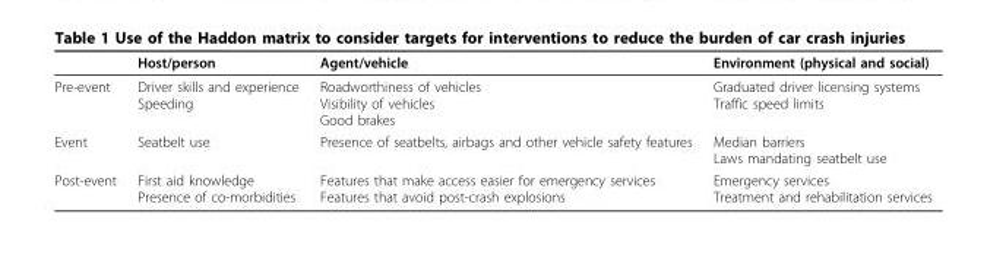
<table><thead><tr><td></td><td>Host/person</td><td>Agent/vehicle</td><td>Environment (physical and social)</td></tr></thead><tbody><tr><td>Pre-event</td><td>Driver skills and experience Speeding</td><td>Roadworthiness of vehicles Visibility of vehicles Good brakes</td><td>Graduated driver licensing systems Traffic speed limits</td></tr><tr><td>Event</td><td>Seatbelt use</td><td>Presence of seatbelts, airbags and other vehicle safety features</td><td>Median barriers Laws mandating seatbelt use</td></tr><tr><td>Post-event</td><td>First aid knowledge Presence of co-morbidities</td><td>Features that make access easier for emergency services Features that avoid post-crash explosions</td><td>Emergency services Treatment and rehabilitation services</td></tr></tbody></table>